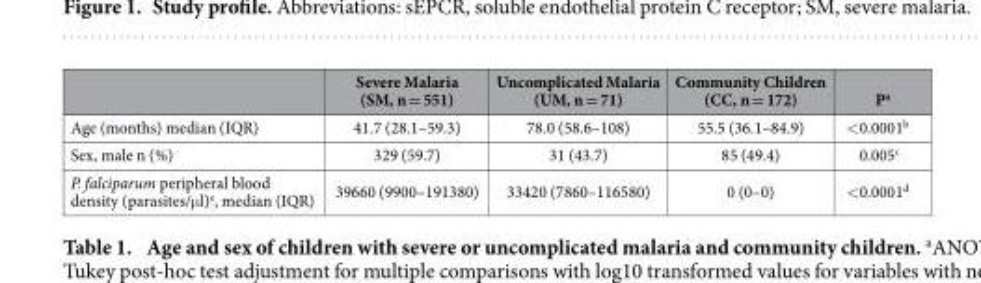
<table><thead><tr><td></td><td>Severe Malaria (SM, n = 551)</td><td>Uncomplicated Malaria (UM, n = 71)</td><td>Community Children (CC, n = 172)</td><td>P<sup>a</sup></td></tr></thead><tbody><tr><td>Age (months) median (IQR)</td><td>41.7 (28.1–59.3)</td><td>78.0 (58.6–108)</td><td>55.5 (36.1–84.9)</td><td>&lt; 0.0001<sup>b</sup></td></tr><tr><td>Sex, male n (%)</td><td>329 (59.7)</td><td>31 (43.7)</td><td>85 (49.4)</td><td>0.005<sup>c</sup></td></tr><tr><td>P. falciparum peripheral blood density (parasites/μ l)<sup>e</sup>, median (IQR)</td><td>39660 (9900–191380)</td><td>33420 (7860–116580)</td><td>0 (0–0)</td><td>&lt; 0.0001<sup>d</sup></td></tr></tbody></table>